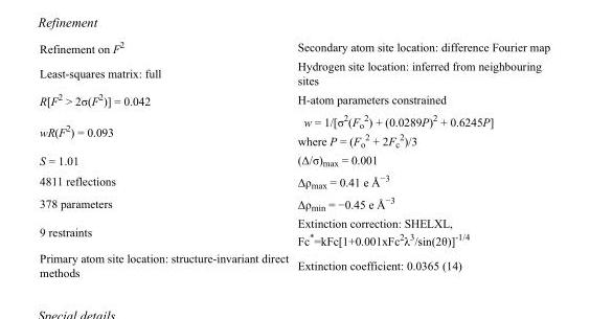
<table><tbody><tr><td>Refinement on F<sup>2</sup></td><td>Secondary atom site location: difference Fourier map</td></tr><tr><td>Least-squares matrix: full</td><td>Hydrogen site location: inferred from neighbouring sites</td></tr><tr><td>R[F<sup>2</sup> &gt; 2σ(F<sup>2</sup>)] = 0.042</td><td>H-atom parameters constrained</td></tr><tr><td>wR(F<sup>2</sup>) = 0.093</td><td>w = 1/[σ<sup>2</sup>(F<sub>o</sub> <sup>2</sup>) + (0.0289P)<sup>2</sup> + 0.6245P] where P = (F<sub>o</sub> <sup>2</sup> + 2F<sub>c</sub> <sup>2</sup>)/3</td></tr><tr><td>S = 1.01</td><td>(Δ/σ)<sub>max</sub> = 0.001</td></tr><tr><td>4811 reflections</td><td>Δρ<sub>max</sub> = 0.41 e Å<sup>−3</sup></td></tr><tr><td>378 parameters</td><td>Δρ<sub>min</sub> = −0.45 e Å<sup>−3</sup></td></tr><tr><td>9 restraints</td><td>Extinction correction: SHELXL, Fc*=kFc[1+0.001xFc<sup>2</sup>λ<sup>3</sup>/sin(2θ)]<sup>-1/4</sup></td></tr><tr><td>Primary atom site location: structure-invariant direct methods</td><td>Extinction coefficient: 0.0365 (14)</td></tr></tbody></table>